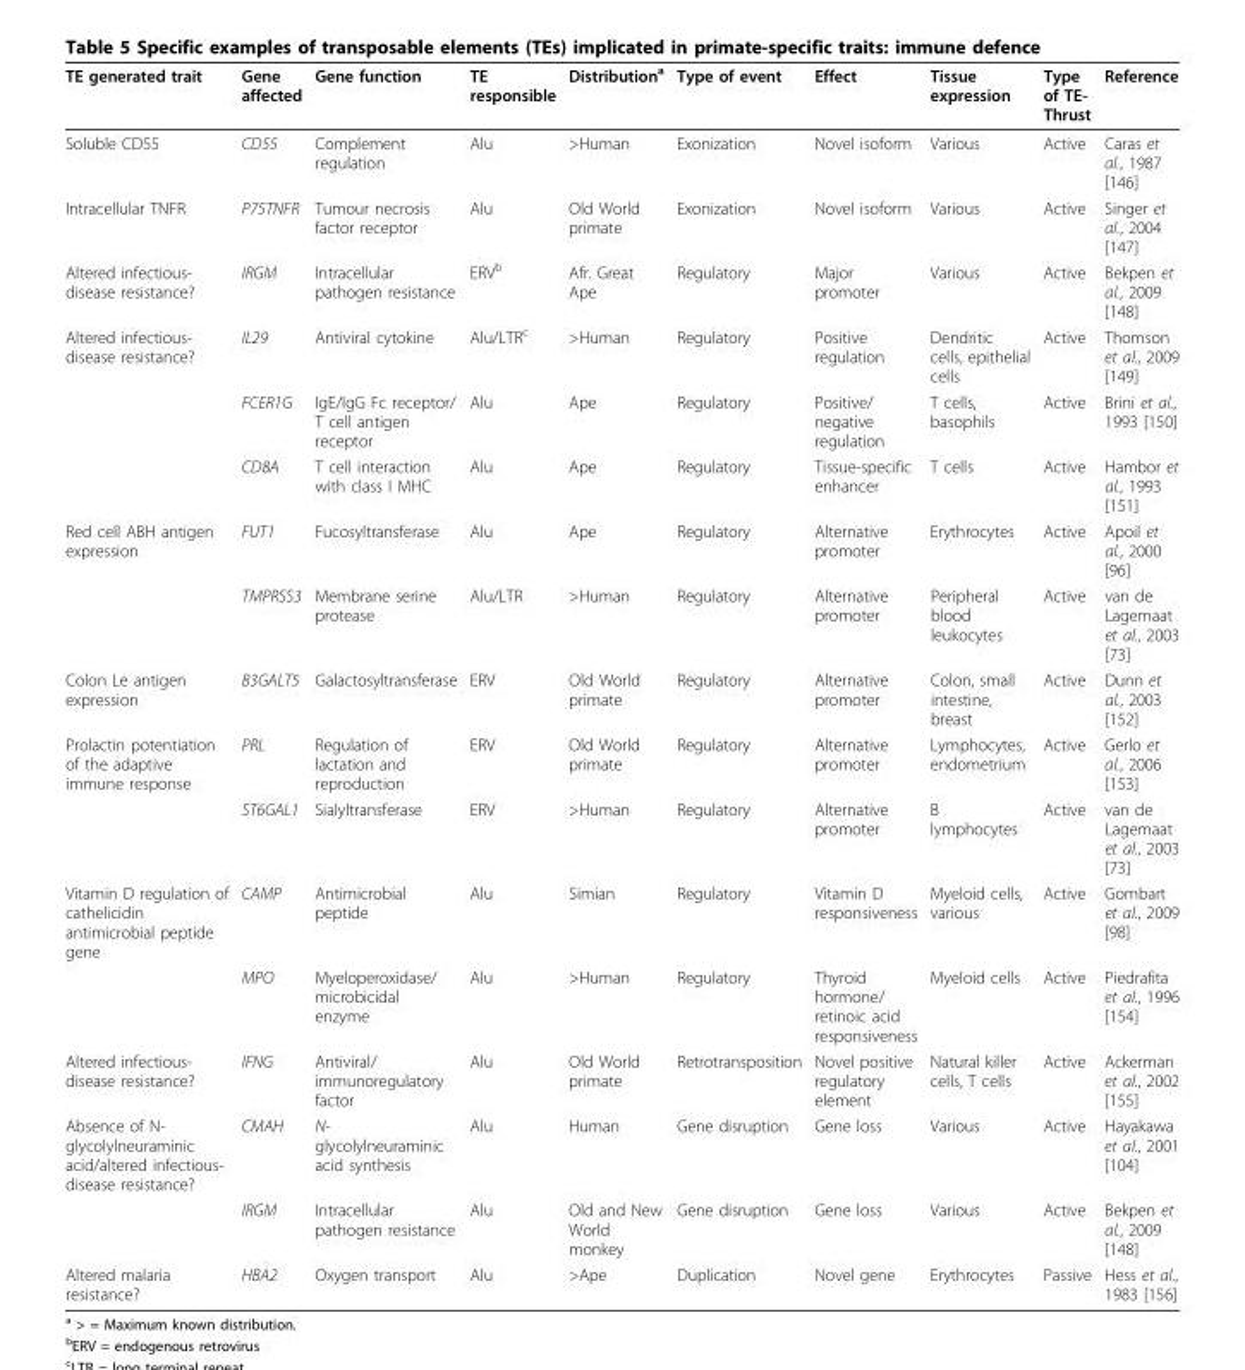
<table><thead><tr><td>TE generated trait</td><td>Gene affected</td><td>Gene function</td><td>TE responsible</td><td>Distribution<sup>a</sup></td><td>Type of event</td><td>Effect</td><td>Tissue expression</td><td>Type of TE- Thrust</td><td>Reference</td></tr></thead><tbody><tr><td>Soluble CD55</td><td>CD55</td><td>Complement regulation</td><td>Alu</td><td>&gt;Human</td><td>Exonization</td><td>Novel isoform</td><td>Various</td><td>Active</td><td>Caras et al., 1987 [146]</td></tr><tr><td>Intracellular TNFR</td><td>P75TNFR</td><td>Tumour necrosis factor receptor</td><td>Alu</td><td>Old World primate</td><td>Exonization</td><td>Novel isoform</td><td>Various</td><td>Active</td><td>Singer et al., 2004 [147]</td></tr><tr><td>Altered infectious- disease resistance?</td><td>IRGM</td><td>Intracellular pathogen resistance</td><td>ERV<sup>b</sup></td><td>Afr. Great Ape</td><td>Regulatory</td><td>Major promoter</td><td>Various</td><td>Active</td><td>Bekpen et al., 2009 [148]</td></tr><tr><td rowspan="3">Altered infectious- disease resistance?</td><td>IL29</td><td>Antiviral cytokine</td><td>Alu/LTR<sup>c</sup></td><td>&gt;Human</td><td>Regulatory</td><td>Positive regulation</td><td>Dendritic cells, epithelial cells</td><td>Active</td><td>Thomson et al., 2009 [149]</td></tr><tr><td>FCER1G</td><td>IgE/IgG Fc receptor/ T cell antigen receptor</td><td>Alu</td><td>Ape</td><td>Regulatory</td><td>Positive/ negative regulation</td><td>T cells, basophils</td><td>Active</td><td>Brini et al., 1993 [150]</td></tr><tr><td>CD8A</td><td>T cell interaction with class I MHC</td><td>Alu</td><td>Ape</td><td>Regulatory</td><td>Tissue-specific enhancer</td><td>T cells</td><td>Active</td><td>Hambor et al., 1993 [151]</td></tr><tr><td rowspan="2">Red cell ABH antigen expression</td><td>FUT1</td><td>Fucosyltransferase</td><td>Alu</td><td>Ape</td><td>Regulatory</td><td>Alternative promoter</td><td>Erythrocytes</td><td>Active</td><td>Apoil et al., 2000 [96]</td></tr><tr><td>TMPRSS3</td><td>Membrane serine protease</td><td>Alu/LTR</td><td>&gt;Human</td><td>Regulatory</td><td>Alternative promoter</td><td>Peripheral blood leukocytes</td><td>Active</td><td>van de Lagemaat et al., 2003 [73]</td></tr><tr><td>Colon Le antigen expression</td><td>B3GALT5</td><td>Galactosyltransferase</td><td>ERV</td><td>Old World primate</td><td>Regulatory</td><td>Alternative promoter</td><td>Colon, small intestine, breast</td><td>Active</td><td>Dunn et al., 2003 [152]</td></tr><tr><td rowspan="2">Prolactin potentiation of the adaptive immune response</td><td>PRL</td><td>Regulation of lactation and reproduction</td><td>ERV</td><td>Old World primate</td><td>Regulatory</td><td>Alternative promoter</td><td>Lymphocytes, endometrium</td><td>Active</td><td>Gerlo et al., 2006 [153]</td></tr><tr><td>ST6GAL1</td><td>Sialyltransferase</td><td>ERV</td><td>&gt;Human</td><td>Regulatory</td><td>Alternative promoter</td><td>B lymphocytes</td><td>Active</td><td>van de Lagemaat et al., 2003 [73]</td></tr><tr><td rowspan="2">Vitamin D regulation of cathelicidin antimicrobial peptide gene</td><td>CAMP</td><td>Antimicrobial peptide</td><td>Alu</td><td>Simian</td><td>Regulatory</td><td>Vitamin D responsiveness</td><td>Myeloid cells, various</td><td>Active</td><td>Gombart et al., 2009 [98]</td></tr><tr><td>MPO</td><td>Myeloperoxidase/ microbicidal enzyme</td><td>Alu</td><td>&gt;Human</td><td>Regulatory</td><td>Thyroid hormone/ retinoic acid responsiveness</td><td>Myeloid cells</td><td>Active</td><td>Piedrafita et al., 1996 [154]</td></tr><tr><td>Altered infectious- disease resistance?</td><td>IFNG</td><td>Antiviral/ immunoregulatory factor</td><td>Alu</td><td>Old World primate</td><td>Retrotransposition</td><td>Novel positive regulatory element</td><td>Natural killer cells, T cells</td><td>Active</td><td>Ackerman et al., 2002 [155]</td></tr><tr><td rowspan="2">Absence of N- glycolylneuraminic acid/altered infectious- disease resistance?</td><td>CMAH</td><td>N- glycolylneuraminic acid synthesis</td><td>Alu</td><td>Human</td><td>Gene disruption</td><td>Gene loss</td><td>Various</td><td>Active</td><td>Hayakawa et al., 2001 [104]</td></tr><tr><td>IRGM</td><td>Intracellular pathogen resistance</td><td>Alu</td><td>Old and New World monkey</td><td>Gene disruption</td><td>Gene loss</td><td>Various</td><td>Active</td><td>Bekpen et al., 2009 [148]</td></tr><tr><td>Altered malaria resistance?</td><td>HBA2</td><td>Oxygen transport</td><td>Alu</td><td>&gt;Ape</td><td>Duplication</td><td>Novel gene</td><td>Erythrocytes</td><td>Passive</td><td>Hess et al., 1983 [156]</td></tr></tbody></table>